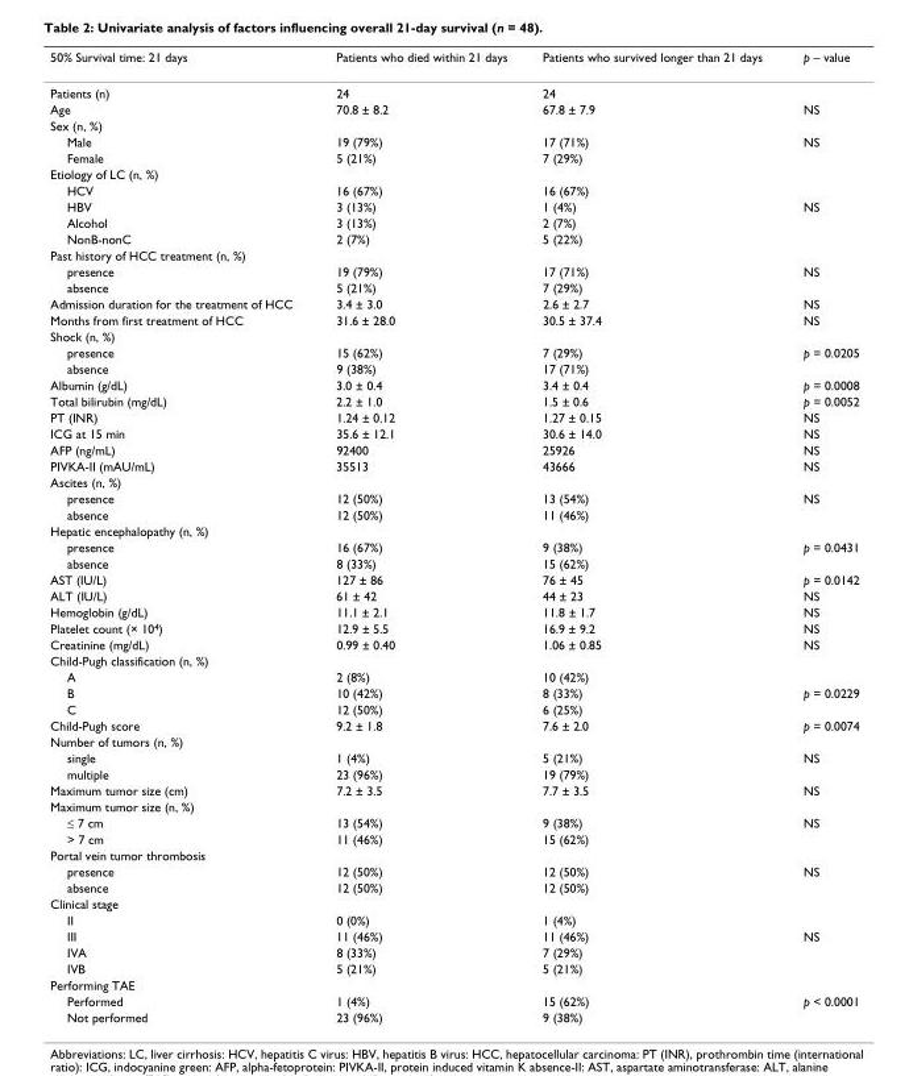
<table><thead><tr><td>50% Survival time: 21 days</td><td>Patients who died within 21 days</td><td>Patients who survived longer than 21 days</td><td>p – value</td></tr></thead><tbody><tr><td>Patients (n)</td><td>24</td><td>24</td><td></td></tr><tr><td>Age</td><td>70.8 ± 8.2</td><td>67.8 ± 7.9</td><td>NS</td></tr><tr><td colspan="4">Sex (n, %)</td></tr><tr><td>Male</td><td>19 (79%)</td><td>17 (71%)</td><td>NS</td></tr><tr><td>Female</td><td>5 (21%)</td><td>7 (29%)</td><td></td></tr><tr><td colspan="4">Etiology of LC (n, %)</td></tr><tr><td>HCV</td><td>16 (67%)</td><td>16 (67%)</td><td></td></tr><tr><td>HBV</td><td>3 (13%)</td><td>1 (4%)</td><td>NS</td></tr><tr><td>Alcohol</td><td>3 (13%)</td><td>2 (7%)</td><td></td></tr><tr><td>NonB-nonC</td><td>2 (7%)</td><td>5 (22%)</td><td></td></tr><tr><td colspan="4">Past history of HCC treatment (n, %)</td></tr><tr><td>presence</td><td>19 (79%)</td><td>17 (71%)</td><td>NS</td></tr><tr><td>absence</td><td>5 (21%)</td><td>7 (29%)</td><td></td></tr><tr><td>Admission duration for the treatment of HCC</td><td>3.4 ± 3.0</td><td>2.6 ± 2.7</td><td>NS</td></tr><tr><td>Months from first treatment of HCC</td><td>31.6 ± 28.0</td><td>30.5 ± 37.4</td><td>NS</td></tr><tr><td colspan="4">Shock (n, %)</td></tr><tr><td>presence</td><td>15 (62%)</td><td>7 (29%)</td><td>p = 0.0205</td></tr><tr><td>absence</td><td>9 (38%)</td><td>17 (71%)</td><td></td></tr><tr><td>Albumin (g/dL)</td><td>3.0 ± 0.4</td><td>3.4 ± 0.4</td><td>p = 0.0008</td></tr><tr><td>Total bilirubin (mg/dL)</td><td>2.2 ± 1.0</td><td>1.5 ± 0.6</td><td>p = 0.0052</td></tr><tr><td>PT (INR)</td><td>1.24 ± 0.12</td><td>1.27 ± 0.15</td><td>NS</td></tr><tr><td>ICG at 15 min</td><td>35.6 ± 12.1</td><td>30.6 ± 14.0</td><td>NS</td></tr><tr><td>AFP (ng/mL)</td><td>92400</td><td>25926</td><td>NS</td></tr><tr><td>PIVKA-II (mAU/mL)</td><td>35513</td><td>43666</td><td>NS</td></tr><tr><td colspan="4">Ascites (n, %)</td></tr><tr><td>presence</td><td>12 (50%)</td><td>13 (54%)</td><td>NS</td></tr><tr><td>absence</td><td>12 (50%)</td><td>11 (46%)</td><td></td></tr><tr><td colspan="4">Hepatic encephalopathy (n, %)</td></tr><tr><td>presence</td><td>16 (67%)</td><td>9 (38%)</td><td>p = 0.0431</td></tr><tr><td>absence</td><td>8 (33%)</td><td>15 (62%)</td><td></td></tr><tr><td>AST (IU/L)</td><td>127 ± 86</td><td>76 ± 45</td><td>p = 0.0142</td></tr><tr><td>ALT (IU/L)</td><td>61 ± 42</td><td>44 ± 23</td><td>NS</td></tr><tr><td>Hemoglobin (g/dL)</td><td>11.1 ± 2.1</td><td>11.8 ± 1.7</td><td>NS</td></tr><tr><td>Platelet count (× 10<sup>4</sup>)</td><td>12.9 ± 5.5</td><td>16.9 ± 9.2</td><td>NS</td></tr><tr><td>Creatinine (mg/dL)</td><td>0.99 ± 0.40</td><td>1.06 ± 0.85</td><td>NS</td></tr><tr><td colspan="4">Child-Pugh classification (n, %)</td></tr><tr><td>A</td><td>2 (8%)</td><td>10 (42%)</td><td></td></tr><tr><td>B</td><td>10 (42%)</td><td>8 (33%)</td><td>p = 0.0229</td></tr><tr><td>C</td><td>12 (50%)</td><td>6 (25%)</td><td></td></tr><tr><td>Child-Pugh score</td><td>9.2 ± 1.8</td><td>7.6 ± 2.0</td><td>p = 0.0074</td></tr><tr><td colspan="4">Number of tumors (n, %)</td></tr><tr><td>single</td><td>1 (4%)</td><td>5 (21%)</td><td>NS</td></tr><tr><td>multiple</td><td>23 (96%)</td><td>19 (79%)</td><td></td></tr><tr><td>Maximum tumor size (cm)</td><td>7.2 ± 3.5</td><td>7.7 ± 3.5</td><td>NS</td></tr><tr><td colspan="4">Maximum tumor size (n, %)</td></tr><tr><td>≤ 7 cm</td><td>13 (54%)</td><td>9 (38%)</td><td>NS</td></tr><tr><td>&gt; 7 cm</td><td>11 (46%)</td><td>15 (62%)</td><td></td></tr><tr><td colspan="4">Portal vein tumor thrombosis</td></tr><tr><td>presence</td><td>12 (50%)</td><td>12 (50%)</td><td>NS</td></tr><tr><td>absence</td><td>12 (50%)</td><td>12 (50%)</td><td></td></tr><tr><td colspan="4">Clinical stage</td></tr><tr><td>II</td><td>0 (0%)</td><td>1 (4%)</td><td></td></tr><tr><td>III</td><td>11 (46%)</td><td>11 (46%)</td><td>NS</td></tr><tr><td>IVA</td><td>8 (33%)</td><td>7 (29%)</td><td></td></tr><tr><td>IVB</td><td>5 (21%)</td><td>5 (21%)</td><td></td></tr><tr><td colspan="4">Performing TAE</td></tr><tr><td>Performed</td><td>1 (4%)</td><td>15 (62%)</td><td>p &lt; 0.0001</td></tr><tr><td>Not performed</td><td>23 (96%)</td><td>9 (38%)</td><td></td></tr></tbody></table>